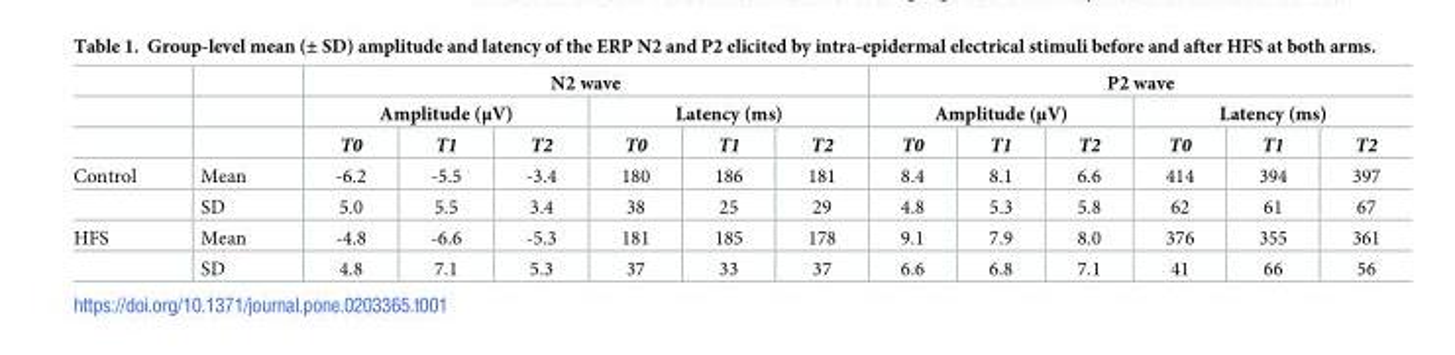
<table><thead><tr><td rowspan="3"></td><td rowspan="3"></td><td colspan="6">N2 wave</td><td colspan="6">P2 wave</td></tr><tr><td colspan="3">Amplitude (μV)</td><td colspan="3">Latency (ms)</td><td colspan="3">Amplitude (μV)</td><td colspan="3">Latency (ms)</td></tr><tr><td>T0</td><td>T1</td><td>T2</td><td>T0</td><td>T1</td><td>T2</td><td>T0</td><td>T1</td><td>T2</td><td>T0</td><td>T1</td><td>T2</td></tr></thead><tbody><tr><td rowspan="2">Control</td><td>Mean</td><td>-6.2</td><td>-5.5</td><td>-3.4</td><td>180</td><td>186</td><td>181</td><td>8.4</td><td>8.1</td><td>6.6</td><td>414</td><td>394</td><td>397</td></tr><tr><td>SD</td><td>5.0</td><td>5.5</td><td>3.4</td><td>38</td><td>25</td><td>29</td><td>4.8</td><td>5.3</td><td>5.8</td><td>62</td><td>61</td><td>67</td></tr><tr><td rowspan="2">HFS</td><td>Mean</td><td>-4.8</td><td>-6.6</td><td>-5.3</td><td>181</td><td>185</td><td>178</td><td>9.1</td><td>7.9</td><td>8.0</td><td>376</td><td>355</td><td>361</td></tr><tr><td>SD</td><td>4.8</td><td>7.1</td><td>5.3</td><td>37</td><td>33</td><td>37</td><td>6.6</td><td>6.8</td><td>7.1</td><td>41</td><td>66</td><td>56</td></tr></tbody></table>